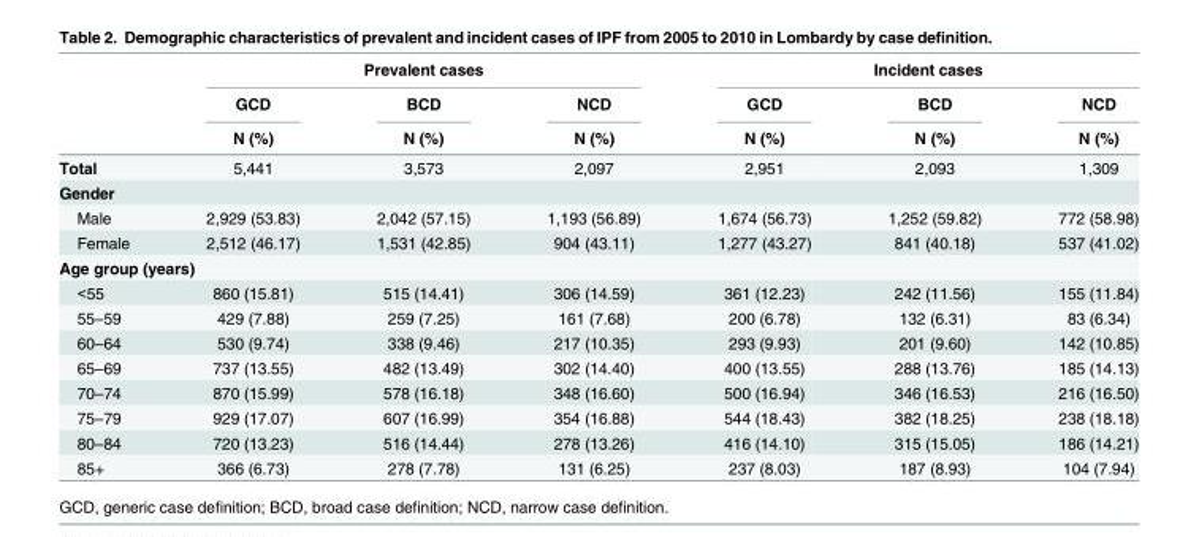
<table><thead><tr><td rowspan="3"></td><td colspan="3">Prevalent cases</td><td colspan="3">Incident cases</td></tr><tr><td rowspan="2">GCD N (%)</td><td rowspan="2">BCD N (%)</td><td rowspan="2">NCD N (%)</td><td rowspan="2">GCD N (%)</td><td rowspan="2">BCD N (%)</td><td rowspan="2">NCD N (%)</td></tr><tr></tr></thead><tbody><tr><td>Total</td><td>5,441</td><td>3,573</td><td>2,097</td><td>2,951</td><td>2,093</td><td>1,309</td></tr><tr><td colspan="7">Gender</td></tr><tr><td>Male</td><td>2,929 (53.83)</td><td>2,042 (57.15)</td><td>1,193 (56.89)</td><td>1,674 (56.73)</td><td>1,252 (59.82)</td><td>772 (58.98)</td></tr><tr><td>Female</td><td>2,512 (46.17)</td><td>1,531 (42.85)</td><td>904 (43.11)</td><td>1,277 (43.27)</td><td>841 (40.18)</td><td>537 (41.02)</td></tr><tr><td colspan="7">Age group (years)</td></tr><tr><td>&lt;55</td><td>860 (15.81)</td><td>515 (14.41)</td><td>306 (14.59)</td><td>361 (12.23)</td><td>242 (11.56)</td><td>155 (11.84)</td></tr><tr><td>55–59</td><td>429 (7.88)</td><td>259 (7.25)</td><td>161 (7.68)</td><td>200 (6.78)</td><td>132 (6.31)</td><td>83 (6.34)</td></tr><tr><td>60–64</td><td>530 (9.74)</td><td>338 (9.46)</td><td>217 (10.35)</td><td>293 (9.93)</td><td>201 (9.60)</td><td>142 (10.85)</td></tr><tr><td>65–69</td><td>737 (13.55)</td><td>482 (13.49)</td><td>302 (14.40)</td><td>400 (13.55)</td><td>288 (13.76)</td><td>185 (14.13)</td></tr><tr><td>70–74</td><td>870 (15.99)</td><td>578 (16.18)</td><td>348 (16.60)</td><td>500 (16.94)</td><td>346 (16.53)</td><td>216 (16.50)</td></tr><tr><td>75–79</td><td>929 (17.07)</td><td>607 (16.99)</td><td>354 (16.88)</td><td>544 (18.43)</td><td>382 (18.25)</td><td>238 (18.18)</td></tr><tr><td>80–84</td><td>720 (13.23)</td><td>516 (14.44)</td><td>278 (13.26)</td><td>416 (14.10)</td><td>315 (15.05)</td><td>186 (14.21)</td></tr><tr><td>85+</td><td>366 (6.73)</td><td>278 (7.78)</td><td>131 (6.25)</td><td>237 (8.03)</td><td>187 (8.93)</td><td>104 (7.94)</td></tr></tbody></table>